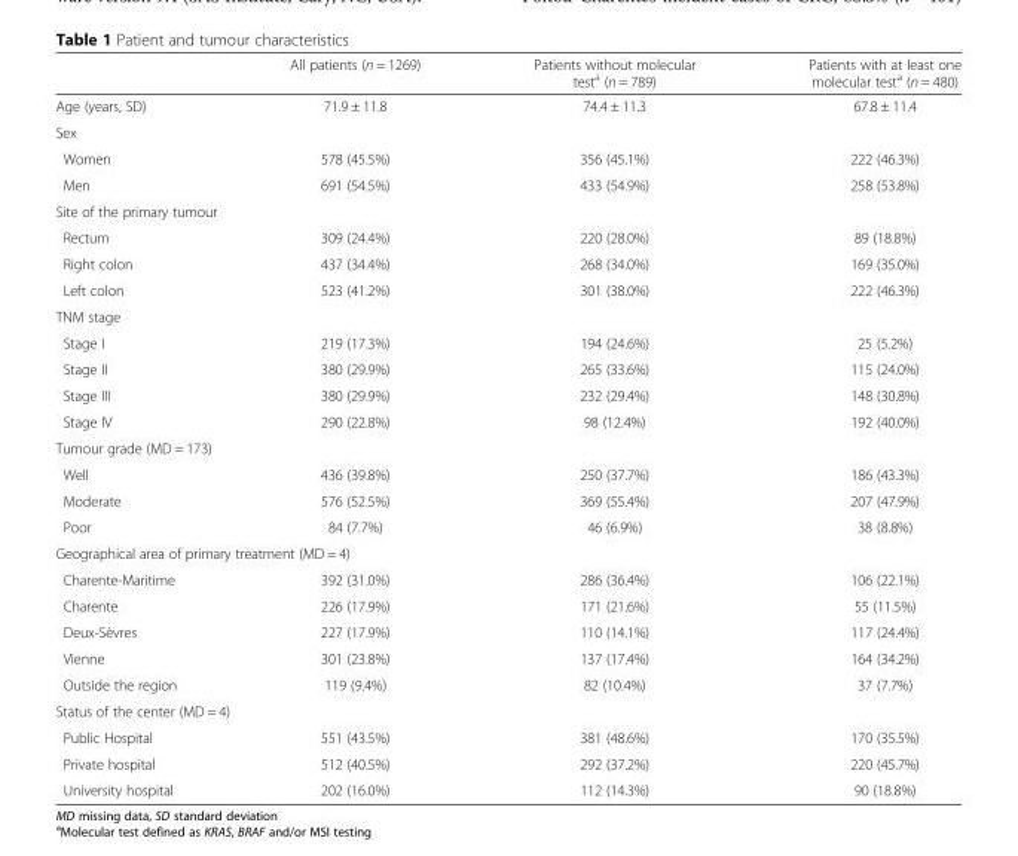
<table><thead><tr><td></td><td>All patients (n = 1269)</td><td>Patients without molecular test<sup>a</sup> (n = 789)</td><td>Patients with at least one molecular test<sup>a</sup> (n = 480)</td></tr></thead><tbody><tr><td>Age (years, SD)</td><td>71.9 ± 11.8</td><td>74.4 ± 11.3</td><td>67.8 ± 11.4</td></tr><tr><td colspan="4">Sex</td></tr><tr><td>Women</td><td>578 (45.5%)</td><td>356 (45.1%)</td><td>222 (46.3%)</td></tr><tr><td>Men</td><td>691 (54.5%)</td><td>433 (54.9%)</td><td>258 (53.8%)</td></tr><tr><td colspan="4">Site of the primary tumour</td></tr><tr><td>Rectum</td><td>309 (24.4%)</td><td>220 (28.0%)</td><td>89 (18.8%)</td></tr><tr><td>Right colon</td><td>437 (34.4%)</td><td>268 (34.0%)</td><td>169 (35.0%)</td></tr><tr><td>Left colon</td><td>523 (41.2%)</td><td>301 (38.0%)</td><td>222 (46.3%)</td></tr><tr><td colspan="4">TNM stage</td></tr><tr><td>Stage I</td><td>219 (17.3%)</td><td>194 (24.6%)</td><td>25 (5.2%)</td></tr><tr><td>Stage II</td><td>380 (29.9%)</td><td>265 (33.6%)</td><td>115 (24.0%)</td></tr><tr><td>Stage III</td><td>380 (29.9%)</td><td>232 (29.4%)</td><td>148 (30.8%)</td></tr><tr><td>Stage IV</td><td>290 (22.8%)</td><td>98 (12.4%)</td><td>192 (40.0%)</td></tr><tr><td colspan="4">Tumour grade (MD = 173)</td></tr><tr><td>Well</td><td>436 (39.8%)</td><td>250 (37.7%)</td><td>186 (43.3%)</td></tr><tr><td>Moderate</td><td>576 (52.5%)</td><td>369 (55.4%)</td><td>207 (47.9%)</td></tr><tr><td>Poor</td><td>84 (7.7%)</td><td>46 (6.9%)</td><td>38 (8.8%)</td></tr><tr><td colspan="4">Geographical area of primary treatment (MD = 4)</td></tr><tr><td>Charente-Maritime</td><td>392 (31.0%)</td><td>286 (36.4%)</td><td>106 (22.1%)</td></tr><tr><td>Charente</td><td>226 (17.9%)</td><td>171 (21.6%)</td><td>55 (11.5%)</td></tr><tr><td>Deux-Sèvres</td><td>227 (17.9%)</td><td>110 (14.1%)</td><td>117 (24.4%)</td></tr><tr><td>Vienne</td><td>301 (23.8%)</td><td>137 (17.4%)</td><td>164 (34.2%)</td></tr><tr><td>Outside the region</td><td>119 (9.4%)</td><td>82 (10.4%)</td><td>37 (7.7%)</td></tr><tr><td colspan="4">Status of the center (MD = 4)</td></tr><tr><td>Public Hospital</td><td>551 (43.5%)</td><td>381 (48.6%)</td><td>170 (35.5%)</td></tr><tr><td>Private hospital</td><td>512 (40.5%)</td><td>292 (37.2%)</td><td>220 (45.7%)</td></tr><tr><td>University hospital</td><td>202 (16.0%)</td><td>112 (14.3%)</td><td>90 (18.8%)</td></tr></tbody></table>